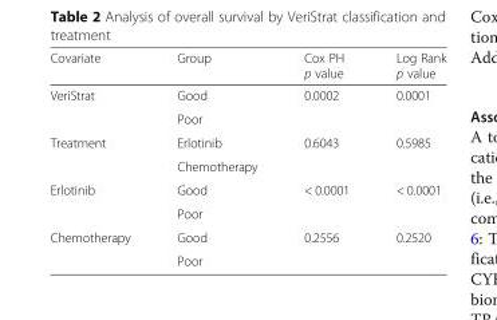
<table><thead><tr><td>Covariate</td><td>Group</td><td>Cox PH p value</td><td>Log Rank p value</td></tr></thead><tbody><tr><td rowspan="2">VeriStrat</td><td>Good</td><td rowspan="2">0.0002</td><td rowspan="2">0.0001</td></tr><tr><td>Poor</td></tr><tr><td rowspan="2">Treatment</td><td>Erlotinib</td><td rowspan="2">0.6043</td><td rowspan="2">0.5985</td></tr><tr><td>Chemotherapy</td></tr><tr><td rowspan="2">Erlotinib</td><td>Good</td><td rowspan="2">&lt; 0.0001</td><td rowspan="2">&lt; 0.0001</td></tr><tr><td>Poor</td></tr><tr><td rowspan="2">Chemotherapy</td><td>Good</td><td rowspan="2">0.2556</td><td rowspan="2">0.2520</td></tr><tr><td>Poor</td></tr></tbody></table>